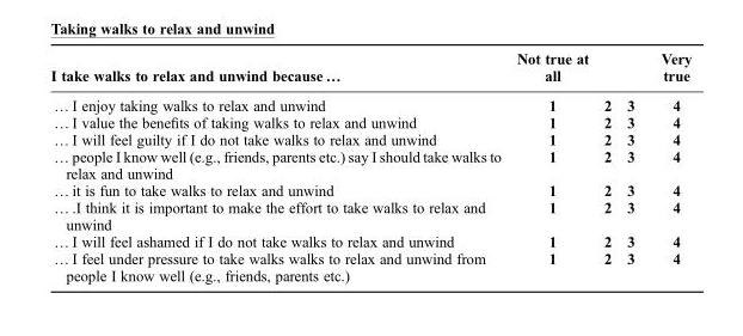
<table><thead><tr><td>I take walks to relax and unwind because …</td><td>Not true at all</td><td></td><td></td><td>Very true</td></tr></thead><tbody><tr><td>… I enjoy taking walks to relax and unwind</td><td>1</td><td>2</td><td>3</td><td>4</td></tr><tr><td>… I value the benefits of taking walks to relax and unwind</td><td>1</td><td>2</td><td>3</td><td>4</td></tr><tr><td>… I will feel guilty if I do not take walks to relax and unwind</td><td>1</td><td>2</td><td>3</td><td>4</td></tr><tr><td>… people I know well (e.g., friends, parents etc.) say I should take walks to relax and unwind</td><td>1</td><td>2</td><td>3</td><td>4</td></tr><tr><td>… it is fun to take walks to relax and unwind</td><td>1</td><td>2</td><td>3</td><td>4</td></tr><tr><td>… .I think it is important to make the effort to take walks to relax and unwind</td><td>1</td><td>2</td><td>3</td><td>4</td></tr><tr><td>… I will feel ashamed if I do not take walks to relax and unwind</td><td>1</td><td>2</td><td>3</td><td>4</td></tr><tr><td>… I feel under pressure to take walks walks to relax and unwind from people I know well (e.g., friends, parents etc.)</td><td>1</td><td>2</td><td>3</td><td>4</td></tr></tbody></table>